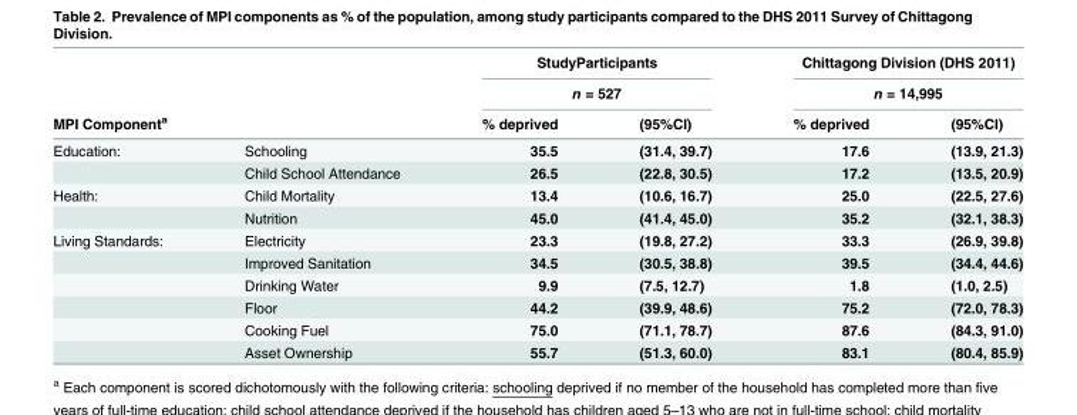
<table><thead><tr><td rowspan="2"></td><td rowspan="2"></td><td rowspan="2" colspan="2">StudyParticipants n = 527</td><td rowspan="2" colspan="2">Chittagong Division (DHS 2011) n = 14,995</td></tr><tr></tr><tr><td colspan="2">MPI Component<sup>a</sup></td><td>% deprived</td><td>(95%CI)</td><td>% deprived</td><td>(95%CI)</td></tr></thead><tbody><tr><td rowspan="2">Education:</td><td>Schooling</td><td>35.5</td><td>(31.4, 39.7)</td><td>17.6</td><td>(13.9, 21.3)</td></tr><tr><td>Child School Attendance</td><td>26.5</td><td>(22.8, 30.5)</td><td>17.2</td><td>(13.5, 20.9)</td></tr><tr><td rowspan="2">Health:</td><td>Child Mortality</td><td>13.4</td><td>(10.6, 16.7)</td><td>25.0</td><td>(22.5, 27.6)</td></tr><tr><td>Nutrition</td><td>45.0</td><td>(41.4, 45.0)</td><td>35.2</td><td>(32.1, 38.3)</td></tr><tr><td rowspan="6">Living Standards:</td><td>Electricity</td><td>23.3</td><td>(19.8, 27.2)</td><td>33.3</td><td>(26.9, 39.8)</td></tr><tr><td>Improved Sanitation</td><td>34.5</td><td>(30.5, 38.8)</td><td>39.5</td><td>(34.4, 44.6)</td></tr><tr><td>Drinking Water</td><td>9.9</td><td>(7.5, 12.7)</td><td>1.8</td><td>(1.0, 2.5)</td></tr><tr><td>Floor</td><td>44.2</td><td>(39.9, 48.6)</td><td>75.2</td><td>(72.0, 78.3)</td></tr><tr><td>Cooking Fuel</td><td>75.0</td><td>(71.1, 78.7)</td><td>87.6</td><td>(84.3, 91.0)</td></tr><tr><td>Asset Ownership</td><td>55.7</td><td>(51.3, 60.0)</td><td>83.1</td><td>(80.4, 85.9)</td></tr></tbody></table>